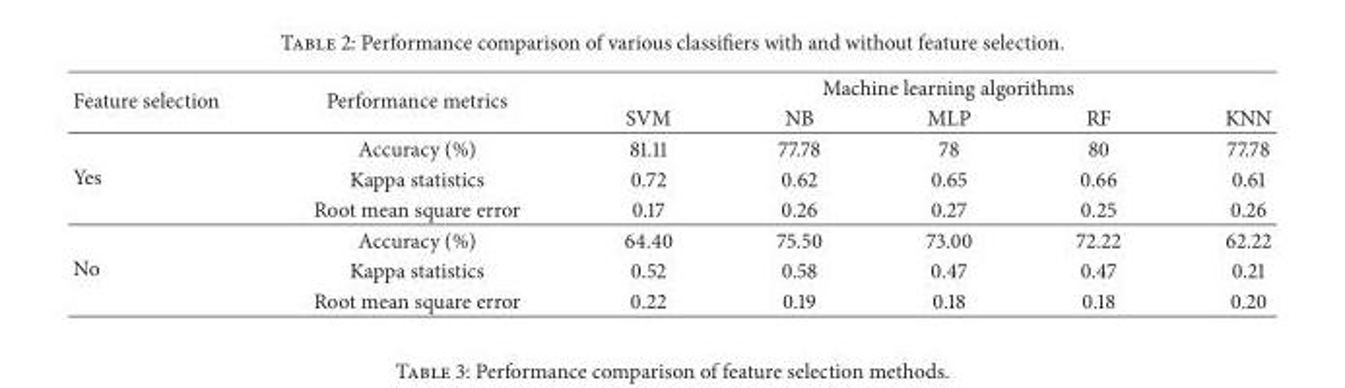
<table><thead><tr><td rowspan="2">Feature selection</td><td rowspan="2">Performance metrics</td><td colspan="5">Machine learning algorithms</td></tr><tr><td>SVM</td><td>NB</td><td>MLP</td><td>RF</td><td>KNN</td></tr></thead><tbody><tr><td rowspan="3">Yes</td><td>Accuracy (%)</td><td>81.11</td><td>77.78</td><td>78</td><td>80</td><td>77.78</td></tr><tr><td>Kappa statistics</td><td>0.72</td><td>0.62</td><td>0.65</td><td>0.66</td><td>0.61</td></tr><tr><td>Root mean square error</td><td>0.17</td><td>0.26</td><td>0.27</td><td>0.25</td><td>0.26</td></tr><tr><td rowspan="3">No</td><td>Accuracy (%)</td><td>64.40</td><td>75.50</td><td>73.00</td><td>72.22</td><td>62.22</td></tr><tr><td>Kappa statistics</td><td>0.52</td><td>0.58</td><td>0.47</td><td>0.47</td><td>0.21</td></tr><tr><td>Root mean square error</td><td>0.22</td><td>0.19</td><td>0.18</td><td>0.18</td><td>0.20</td></tr></tbody></table>